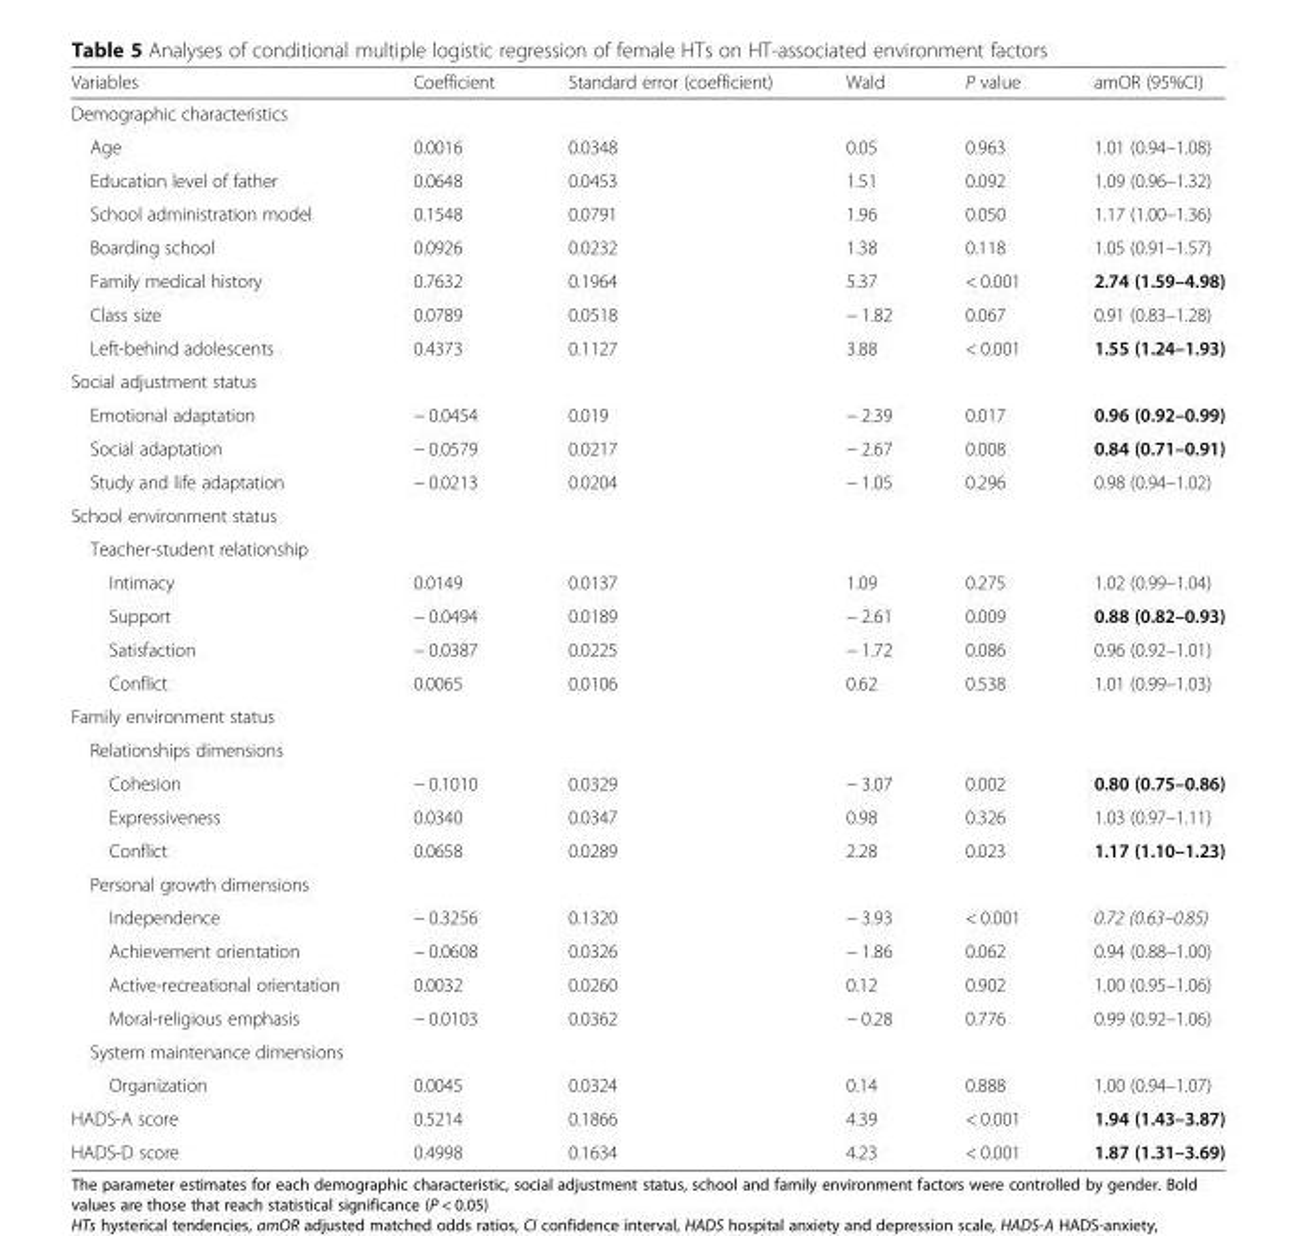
<table><thead><tr><td>Variables</td><td>Coefficient</td><td>Standard error (coefficient)</td><td>Wald</td><td>P value</td><td>amOR (95%CI)</td></tr></thead><tbody><tr><td colspan="6">Demographic characteristics</td></tr><tr><td>Age</td><td>0.0016</td><td>0.0348</td><td>0.05</td><td>0.963</td><td>1.01 (0.94–1.08)</td></tr><tr><td>Education level of father</td><td>0.0648</td><td>0.0453</td><td>1.51</td><td>0.092</td><td>1.09 (0.96–1.32)</td></tr><tr><td>School administration model</td><td>0.1548</td><td>0.0791</td><td>1.96</td><td>0.050</td><td>1.17 (1.00–1.36)</td></tr><tr><td>Boarding school</td><td>0.0926</td><td>0.0232</td><td>1.38</td><td>0.118</td><td>1.05 (0.91–1.57)</td></tr><tr><td>Family medical history</td><td>0.7632</td><td>0.1964</td><td>5.37</td><td>&lt; 0.001</td><td>2.74 (1.59–4.98)</td></tr><tr><td>Class size</td><td>0.0789</td><td>0.0518</td><td>− 1.82</td><td>0.067</td><td>0.91 (0.83–1.28)</td></tr><tr><td>Left-behind adolescents</td><td>0.4373</td><td>0.1127</td><td>3.88</td><td>&lt; 0.001</td><td>1.55 (1.24–1.93)</td></tr><tr><td colspan="6">Social adjustment status</td></tr><tr><td>Emotional adaptation</td><td>− 0.0454</td><td>0.019</td><td>− 2.39</td><td>0.017</td><td>0.96 (0.92–0.99)</td></tr><tr><td>Social adaptation</td><td>− 0.0579</td><td>0.0217</td><td>− 2.67</td><td>0.008</td><td>0.84 (0.71–0.91)</td></tr><tr><td>Study and life adaptation</td><td>− 0.0213</td><td>0.0204</td><td>− 1.05</td><td>0.296</td><td>0.98 (0.94–1.02)</td></tr><tr><td colspan="6">School environment status</td></tr><tr><td colspan="6">Teacher-student relationship</td></tr><tr><td>Intimacy</td><td>0.0149</td><td>0.0137</td><td>1.09</td><td>0.275</td><td>1.02 (0.99–1.04)</td></tr><tr><td>Support</td><td>− 0.0494</td><td>0.0189</td><td>− 2.61</td><td>0.009</td><td>0.88 (0.82–0.93)</td></tr><tr><td>Satisfaction</td><td>− 0.0387</td><td>0.0225</td><td>− 1.72</td><td>0.086</td><td>0.96 (0.92–1.01)</td></tr><tr><td>Conflict</td><td>0.0065</td><td>0.0106</td><td>0.62</td><td>0.538</td><td>1.01 (0.99–1.03)</td></tr><tr><td colspan="6">Family environment status</td></tr><tr><td colspan="6">Relationships dimensions</td></tr><tr><td>Cohesion</td><td>− 0.1010</td><td>0.0329</td><td>− 3.07</td><td>0.002</td><td>0.80 (0.75–0.86)</td></tr><tr><td>Expressiveness</td><td>0.0340</td><td>0.0347</td><td>0.98</td><td>0.326</td><td>1.03 (0.97–1.11)</td></tr><tr><td>Conflict</td><td>0.0658</td><td>0.0289</td><td>2.28</td><td>0.023</td><td>1.17 (1.10–1.23)</td></tr><tr><td colspan="6">Personal growth dimensions</td></tr><tr><td>Independence</td><td>− 0.3256</td><td>0.1320</td><td>− 3.93</td><td>&lt; 0.001</td><td>0.72 (0.63–0.85)</td></tr><tr><td>Achievement orientation</td><td>− 0.0608</td><td>0.0326</td><td>− 1.86</td><td>0.062</td><td>0.94 (0.88–1.00)</td></tr><tr><td>Active-recreational orientation</td><td>0.0032</td><td>0.0260</td><td>0.12</td><td>0.902</td><td>1.00 (0.95–1.06)</td></tr><tr><td>Moral-religious emphasis</td><td>− 0.0103</td><td>0.0362</td><td>− 0.28</td><td>0.776</td><td>0.99 (0.92–1.06)</td></tr><tr><td colspan="6">System maintenance dimensions</td></tr><tr><td>Organization</td><td>0.0045</td><td>0.0324</td><td>0.14</td><td>0.888</td><td>1.00 (0.94–1.07)</td></tr><tr><td>HADS-A score</td><td>0.5214</td><td>0.1866</td><td>4.39</td><td>&lt; 0.001</td><td>1.94 (1.43–3.87)</td></tr><tr><td>HADS-D score</td><td>0.4998</td><td>0.1634</td><td>4.23</td><td>&lt; 0.001</td><td>1.87 (1.31–3.69)</td></tr></tbody></table>